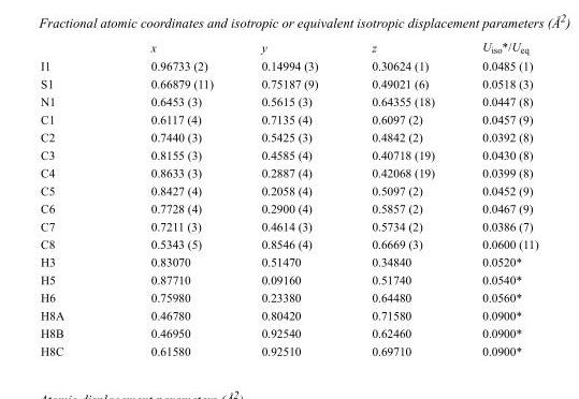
<table><thead><tr><td></td><td>x</td><td>y</td><td>z</td><td>U<sub>iso</sub>*/U<sub>eq</sub></td></tr></thead><tbody><tr><td>I1</td><td>0.96733 (2)</td><td>0.14994 (3)</td><td>0.30624 (1)</td><td>0.0485 (1)</td></tr><tr><td>S1</td><td>0.66879 (11)</td><td>0.75187 (9)</td><td>0.49021 (6)</td><td>0.0518 (3)</td></tr><tr><td>N1</td><td>0.6453 (3)</td><td>0.5615 (3)</td><td>0.64355 (18)</td><td>0.0447 (8)</td></tr><tr><td>C1</td><td>0.6117 (4)</td><td>0.7135 (4)</td><td>0.6097 (2)</td><td>0.0457 (9)</td></tr><tr><td>C2</td><td>0.7440 (3)</td><td>0.5425 (3)</td><td>0.4842 (2)</td><td>0.0392 (8)</td></tr><tr><td>C3</td><td>0.8155 (3)</td><td>0.4585 (4)</td><td>0.40718 (19)</td><td>0.0430 (8)</td></tr><tr><td>C4</td><td>0.8633 (3)</td><td>0.2887 (4)</td><td>0.42068 (19)</td><td>0.0399 (8)</td></tr><tr><td>C5</td><td>0.8427 (4)</td><td>0.2058 (4)</td><td>0.5097 (2)</td><td>0.0452 (9)</td></tr><tr><td>C6</td><td>0.7728 (4)</td><td>0.2900 (4)</td><td>0.5857 (2)</td><td>0.0467 (9)</td></tr><tr><td>C7</td><td>0.7211 (3)</td><td>0.4614 (3)</td><td>0.5734 (2)</td><td>0.0386 (7)</td></tr><tr><td>C8</td><td>0.5343 (5)</td><td>0.8546 (4)</td><td>0.6669 (3)</td><td>0.0600 (11)</td></tr><tr><td>H3</td><td>0.83070</td><td>0.51470</td><td>0.34840</td><td>0.0520*</td></tr><tr><td>H5</td><td>0.87710</td><td>0.09160</td><td>0.51740</td><td>0.0540*</td></tr><tr><td>H6</td><td>0.75980</td><td>0.23380</td><td>0.64480</td><td>0.0560*</td></tr><tr><td>H8A</td><td>0.46780</td><td>0.80420</td><td>0.71580</td><td>0.0900*</td></tr><tr><td>H8B</td><td>0.46950</td><td>0.92540</td><td>0.62460</td><td>0.0900*</td></tr><tr><td>H8C</td><td>0.61580</td><td>0.92510</td><td>0.69710</td><td>0.0900*</td></tr></tbody></table>